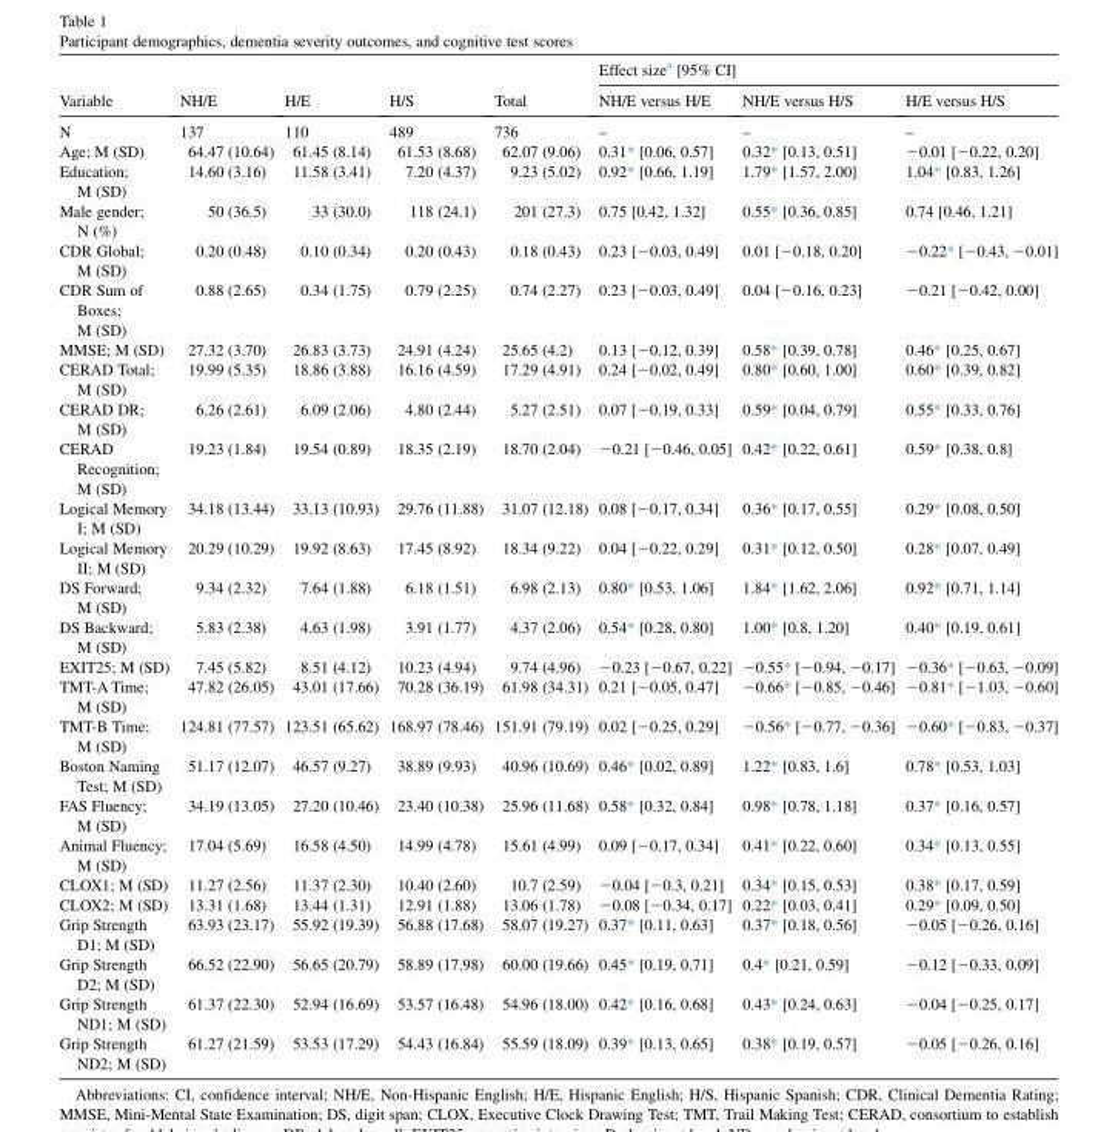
<table><thead><tr><td rowspan="2">Variable</td><td rowspan="2">NH/E</td><td rowspan="2">H/E</td><td rowspan="2">H/S</td><td rowspan="2">Total</td><td colspan="3">Effect size<sup>a</sup> [95% CI]</td></tr><tr><td>NH/E versus H/E</td><td>NH/E versus H/S</td><td>H/E versus H/S</td></tr></thead><tbody><tr><td>N</td><td>137</td><td>110</td><td>489</td><td>736</td><td>–</td><td>–</td><td>–</td></tr><tr><td>Age; M (SD)</td><td>64.47 (10.64)</td><td>61.45 (8.14)</td><td>61.53 (8.68)</td><td>62.07 (9.06)</td><td>0.31* [0.06, 0.57]</td><td>0.32* [0.13, 0.51]</td><td>−0.01 [−0.22, 0.20]</td></tr><tr><td>Education; M (SD)</td><td>14.60 (3.16)</td><td>11.58 (3.41)</td><td>7.20 (4.37)</td><td>9.23 (5.02)</td><td>0.92* [0.66, 1.19]</td><td>1.79* [1.57, 2.00]</td><td>1.04* [0.83, 1.26]</td></tr><tr><td>Male gender; N (%)</td><td>50 (36.5)</td><td>33 (30.0)</td><td>118 (24.1)</td><td>201 (27.3)</td><td>0.75 [0.42, 1.32]</td><td>0.55* [0.36, 0.85]</td><td>0.74 [0.46, 1.21]</td></tr><tr><td>CDR Global; M (SD)</td><td>0.20 (0.48)</td><td>0.10 (0.34)</td><td>0.20 (0.43)</td><td>0.18 (0.43)</td><td>0.23 [−0.03, 0.49]</td><td>0.01 [−0.18, 0.20]</td><td>−0.22* [−0.43, −0.01]</td></tr><tr><td>CDR Sum of Boxes; M (SD)</td><td>0.88 (2.65)</td><td>0.34 (1.75)</td><td>0.79 (2.25)</td><td>0.74 (2.27)</td><td>0.23 [−0.03, 0.49]</td><td>0.04 [−0.16, 0.23]</td><td>−0.21 [−0.42, 0.00]</td></tr><tr><td>MMSE; M (SD)</td><td>27.32 (3.70)</td><td>26.83 (3.73)</td><td>24.91 (4.24)</td><td>25.65 (4.2)</td><td>0.13 [−0.12, 0.39]</td><td>0.58* [0.39, 0.78]</td><td>0.46* [0.25, 0.67]</td></tr><tr><td>CERAD Total; M (SD)</td><td>19.99 (5.35)</td><td>18.86 (3.88)</td><td>16.16 (4.59)</td><td>17.29 (4.91)</td><td>0.24 [−0.02, 0.49]</td><td>0.80* [0.60, 1.00]</td><td>0.60* [0.39, 0.82]</td></tr><tr><td>CERAD DR; M (SD)</td><td>6.26 (2.61)</td><td>6.09 (2.06)</td><td>4.80 (2.44)</td><td>5.27 (2.51)</td><td>0.07 [−0.19, 0.33]</td><td>0.59* [0.04, 0.79]</td><td>0.55* [0.33, 0.76]</td></tr><tr><td>CERAD Recognition; M (SD)</td><td>19.23 (1.84)</td><td>19.54 (0.89)</td><td>18.35 (2.19)</td><td>18.70 (2.04)</td><td>−0.21 [−0.46, 0.05]</td><td>0.42* [0.22, 0.61]</td><td>0.59* [0.38, 0.8]</td></tr><tr><td>Logical Memory I; M (SD)</td><td>34.18 (13.44)</td><td>33.13 (10.93)</td><td>29.76 (11.88)</td><td>31.07 (12.18)</td><td>0.08 [−0.17, 0.34]</td><td>0.36* [0.17, 0.55]</td><td>0.29* [0.08, 0.50]</td></tr><tr><td>Logical Memory II; M (SD)</td><td>20.29 (10.29)</td><td>19.92 (8.63)</td><td>17.45 (8.92)</td><td>18.34 (9.22)</td><td>0.04 [−0.22, 0.29]</td><td>0.31* [0.12, 0.50]</td><td>0.28* [0.07, 0.49]</td></tr><tr><td>DS Forward; M (SD)</td><td>9.34 (2.32)</td><td>7.64 (1.88)</td><td>6.18 (1.51)</td><td>6.98 (2.13)</td><td>0.80* [0.53, 1.06]</td><td>1.84* [1.62, 2.06]</td><td>0.92* [0.71, 1.14]</td></tr><tr><td>DS Backward; M (SD)</td><td>5.83 (2.38)</td><td>4.63 (1.98)</td><td>3.91 (1.77)</td><td>4.37 (2.06)</td><td>0.54* [0.28, 0.80]</td><td>1.00* [0.8, 1.20]</td><td>0.40* [0.19, 0.61]</td></tr><tr><td>EXIT25; M (SD)</td><td>7.45 (5.82)</td><td>8.51 (4.12)</td><td>10.23 (4.94)</td><td>9.74 (4.96)</td><td>−0.23 [−0.67, 0.22]</td><td>−0.55* [−0.94, −0.17]</td><td>−0.36* [−0.63, −0.09]</td></tr><tr><td>TMT-A Time; M (SD)</td><td>47.82 (26.05)</td><td>43.01 (17.66)</td><td>70.28 (36.19)</td><td>61.98 (34.31)</td><td>0.21 [−0.05, 0.47]</td><td>−0.66* [−0.85, −0.46]</td><td>−0.81* [−1.03, −0.60]</td></tr><tr><td>TMT-B Time; M (SD)</td><td>124.81 (77.57)</td><td>123.51 (65.62)</td><td>168.97 (78.46)</td><td>151.91 (79.19)</td><td>0.02 [−0.25, 0.29]</td><td>−0.56* [−0.77, −0.36]</td><td>−0.60* [−0.83, −0.37]</td></tr><tr><td>Boston Naming Test; M (SD)</td><td>51.17 (12.07)</td><td>46.57 (9.27)</td><td>38.89 (9.93)</td><td>40.96 (10.69)</td><td>0.46* [0.02, 0.89]</td><td>1.22* [0.83, 1.6]</td><td>0.78* [0.53, 1.03]</td></tr><tr><td>FAS Fluency; M (SD)</td><td>34.19 (13.05)</td><td>27.20 (10.46)</td><td>23.40 (10.38)</td><td>25.96 (11.68)</td><td>0.58* [0.32, 0.84]</td><td>0.98* [0.78, 1.18]</td><td>0.37* [0.16, 0.57]</td></tr><tr><td>Animal Fluency; M (SD)</td><td>17.04 (5.69)</td><td>16.58 (4.50)</td><td>14.99 (4.78)</td><td>15.61 (4.99)</td><td>0.09 [−0.17, 0.34]</td><td>0.41* [0.22, 0.60]</td><td>0.34* [0.13, 0.55]</td></tr><tr><td>CLOX1; M (SD)</td><td>11.27 (2.56)</td><td>11.37 (2.30)</td><td>10.40 (2.60)</td><td>10.7 (2.59)</td><td>−0.04 [−0.3, 0.21]</td><td>0.34* [0.15, 0.53]</td><td>0.38* [0.17, 0.59]</td></tr><tr><td>CLOX2; M (SD)</td><td>13.31 (1.68)</td><td>13.44 (1.31)</td><td>12.91 (1.88)</td><td>13.06 (1.78)</td><td>−0.08 [−0.34, 0.17]</td><td>0.22* [0.03, 0.41]</td><td>0.29* [0.09, 0.50]</td></tr><tr><td>Grip Strength D1; M (SD)</td><td>63.93 (23.17)</td><td>55.92 (19.39)</td><td>56.88 (17.68)</td><td>58.07 (19.27)</td><td>0.37* [0.11, 0.63]</td><td>0.37* [0.18, 0.56]</td><td>−0.05 [−0.26, 0.16]</td></tr><tr><td>Grip Strength D2; M (SD)</td><td>66.52 (22.90)</td><td>56.65 (20.79)</td><td>58.89 (17.98)</td><td>60.00 (19.66)</td><td>0.45* [0.19, 0.71]</td><td>0.4* [0.21, 0.59]</td><td>−0.12 [−0.33, 0.09]</td></tr><tr><td>Grip Strength ND1; M (SD)</td><td>61.37 (22.30)</td><td>52.94 (16.69)</td><td>53.57 (16.48)</td><td>54.96 (18.00)</td><td>0.42* [0.16, 0.68]</td><td>0.43* [0.24, 0.63]</td><td>−0.04 [−0.25, 0.17]</td></tr><tr><td>Grip Strength ND2; M (SD)</td><td>61.27 (21.59)</td><td>53.53 (17.29)</td><td>54.43 (16.84)</td><td>55.59 (18.09)</td><td>0.39* [0.13, 0.65]</td><td>0.38* [0.19, 0.57]</td><td>−0.05 [−0.26, 0.16]</td></tr></tbody></table>